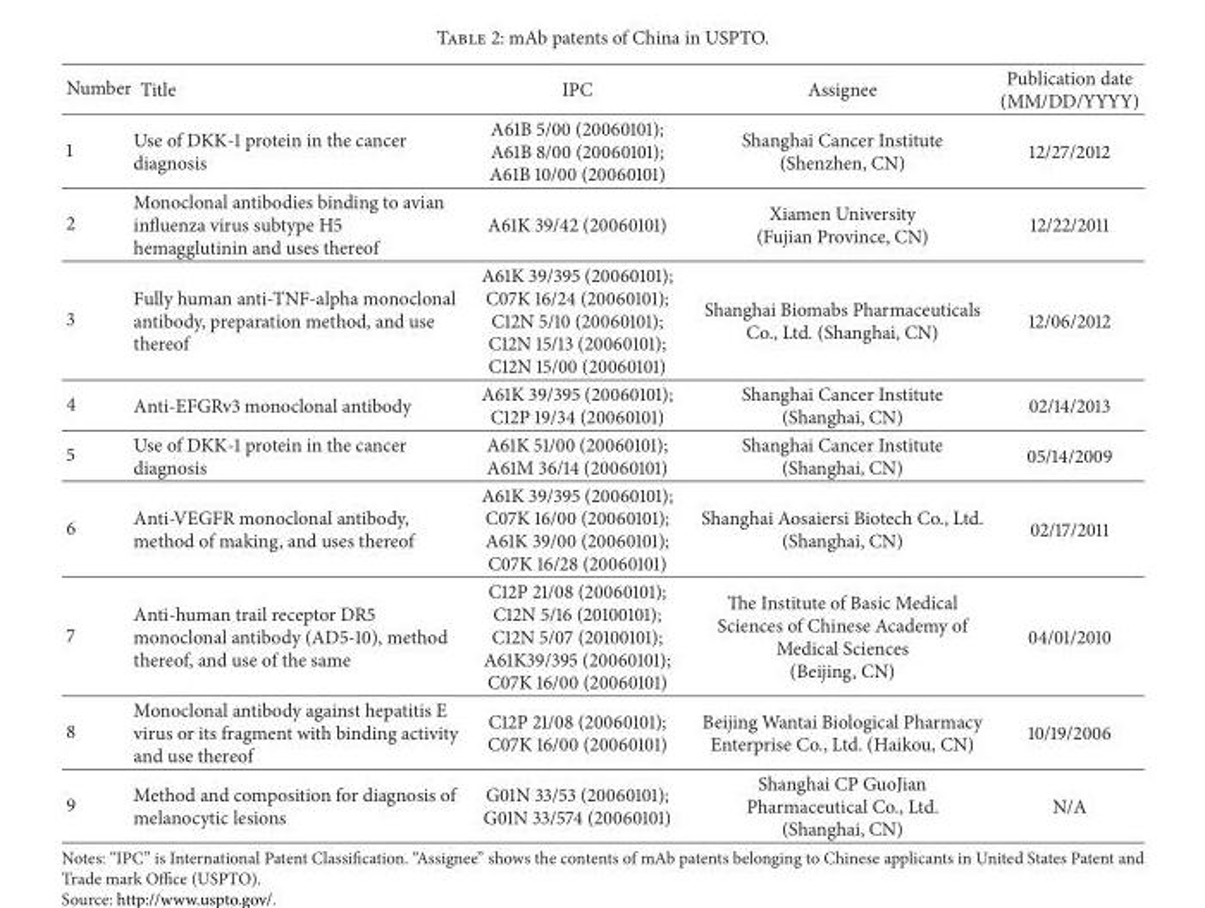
<table><thead><tr><td>Number</td><td>Title</td><td>IPC</td><td>Assignee</td><td>Publication date (MM/DD/YYYY)</td></tr></thead><tbody><tr><td>1</td><td>Use of DKK-1 protein in the cancer diagnosis</td><td>A61B 5/00 (20060101); A61B 8/00 (20060101); A61B 10/00 (20060101)</td><td>Shanghai Cancer Institute (Shenzhen, CN)</td><td>12/27/2012</td></tr><tr><td>2</td><td>Monoclonal antibodies binding to avian influenza virus subtype H5 hemagglutinin and uses thereof</td><td>A61K 39/42 (20060101)</td><td>Xiamen University (Fujian Province, CN)</td><td>12/22/2011</td></tr><tr><td>3</td><td>Fully human anti-TNF-alpha monoclonal antibody, preparation method, and use thereof</td><td>A61K 39/395 (20060101); C07K 16/24 (20060101); C12N 5/10 (20060101); C12N 15/13 (20060101); C12N 15/00 (20060101)</td><td>Shanghai Biomabs Pharmaceuticals Co., Ltd. (Shanghai, CN)</td><td>12/06/2012</td></tr><tr><td>4</td><td>Anti-EFGRv3 monoclonal antibody</td><td>A61K 39/395 (20060101); C12P 19/34 (20060101)</td><td>Shanghai Cancer Institute (Shanghai, CN)</td><td>02/14/2013</td></tr><tr><td>5</td><td>Use of DKK-1 protein in the cancer diagnosis</td><td>A61K 51/00 (20060101); A61M 36/14 (20060101)</td><td>Shanghai Cancer Institute (Shanghai, CN)</td><td>05/14/2009</td></tr><tr><td>6</td><td>Anti-VEGFR monoclonal antibody, method of making, and uses thereof</td><td>A61K 39/395 (20060101); C07K 16/00 (20060101); A61K 39/00 (20060101); C07K 16/28 (20060101)</td><td>Shanghai Aosaiersi Biotech Co., Ltd. (Shanghai, CN)</td><td>02/17/2011</td></tr><tr><td>7</td><td>Anti-human trail receptor DR5 monoclonal antibody (AD5-10), method thereof, and use of the same</td><td>C12P 21/08 (20060101); C12N 5/16 (20100101); C12N 5/07 (20100101); A61K39/395 (20060101); C07K 16/00 (20060101)</td><td>The Institute of Basic Medical Sciences of Chinese Academy of Medical Sciences (Beijing, CN)</td><td>04/01/2010</td></tr><tr><td>8</td><td>Monoclonal antibody against hepatitis E virus or its fragment with binding activity and use thereof</td><td>C12P 21/08 (20060101); C07K 16/00 (20060101)</td><td>Beijing Wantai Biological Pharmacy Enterprise Co., Ltd. (Haikou, CN)</td><td>10/19/2006</td></tr><tr><td>9</td><td>Method and composition for diagnosis of melanocytic lesions</td><td>G01N 33/53 (20060101); G01N 33/574 (20060101)</td><td>Shanghai CP GuoJian Pharmaceutical Co., Ltd. (Shanghai, CN)</td><td>N/A</td></tr></tbody></table>